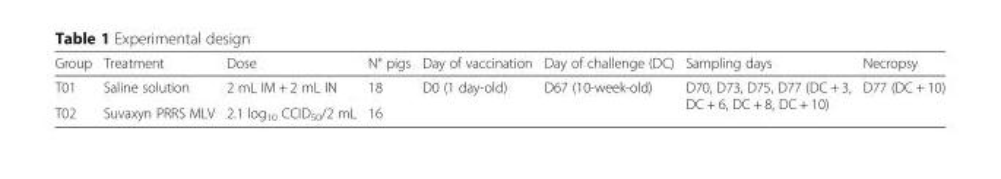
<table><thead><tr><td>Group</td><td>Treatment</td><td>Dose</td><td>N° pigs</td><td>Day of vaccination</td><td>Day of challenge (DC)</td><td>Sampling days</td><td>Necropsy</td></tr></thead><tbody><tr><td>T01</td><td>Saline solution</td><td>2 mL IM + 2 mL IN</td><td>18</td><td rowspan="2">D0 (1 day-old)</td><td rowspan="2">D67 (10-week-old)</td><td rowspan="2">D70, D73, D75, D77 (DC + 3, DC + 6, DC + 8, DC + 10)</td><td rowspan="2">D77 (DC + 10)</td></tr><tr><td>T02</td><td>Suvaxyn PRRS MLV</td><td>2.1 log<sub>10</sub> CCID<sub>50</sub>/2 mL</td><td>16</td></tr></tbody></table>